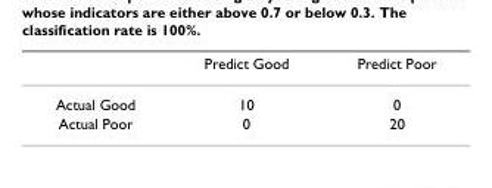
<table><thead><tr><td></td><td>Predict Good</td><td>Predict Poor</td></tr></thead><tbody><tr><td>Actual Good</td><td>10</td><td>0</td></tr><tr><td>Actual Poor</td><td>0</td><td>20</td></tr></tbody></table>